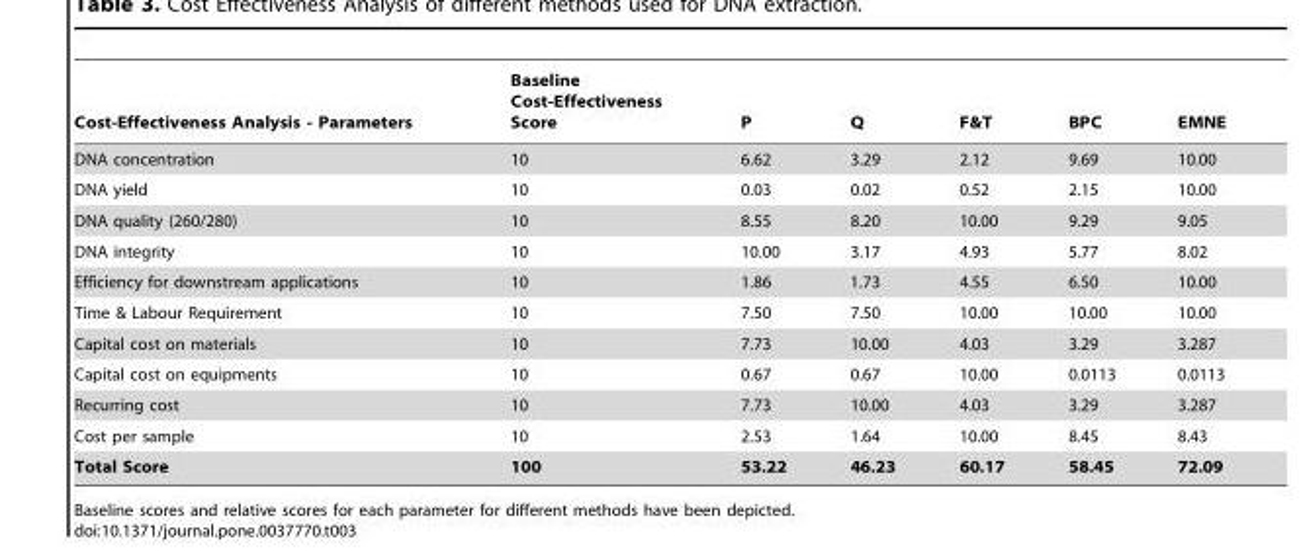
<table><thead><tr><td>Cost-Effectiveness Analysis - Parameters</td><td>Baseline Cost-Effectiveness Score</td><td>P</td><td>Q</td><td>F&amp;T</td><td>BPC</td><td>EMNE</td></tr></thead><tbody><tr><td>DNA concentration</td><td>10</td><td>6.62</td><td>3.29</td><td>2.12</td><td>9.69</td><td>10.00</td></tr><tr><td>DNA yield</td><td>10</td><td>0.03</td><td>0.02</td><td>0.52</td><td>2.15</td><td>10.00</td></tr><tr><td>DNA quality (260/280)</td><td>10</td><td>8.55</td><td>8.20</td><td>10.00</td><td>9.29</td><td>9.05</td></tr><tr><td>DNA integrity</td><td>10</td><td>10.00</td><td>3.17</td><td>4.93</td><td>5.77</td><td>8.02</td></tr><tr><td>Efficiency for downstream applications</td><td>10</td><td>1.86</td><td>1.73</td><td>4.55</td><td>6.50</td><td>10.00</td></tr><tr><td>Time &amp; Labour Requirement</td><td>10</td><td>7.50</td><td>7.50</td><td>10.00</td><td>10.00</td><td>10.00</td></tr><tr><td>Capital cost on materials</td><td>10</td><td>7.73</td><td>10.00</td><td>4.03</td><td>3.29</td><td>3.287</td></tr><tr><td>Capital cost on equipments</td><td>10</td><td>0.67</td><td>0.67</td><td>10.00</td><td>0.0113</td><td>0.0113</td></tr><tr><td>Recurring cost</td><td>10</td><td>7.73</td><td>10.00</td><td>4.03</td><td>3.29</td><td>3.287</td></tr><tr><td>Cost per sample</td><td>10</td><td>2.53</td><td>1.64</td><td>10.00</td><td>8.45</td><td>8.43</td></tr><tr><td>Total Score</td><td>100</td><td>53.22</td><td>46.23</td><td>60.17</td><td>58.45</td><td>72.09</td></tr></tbody></table>